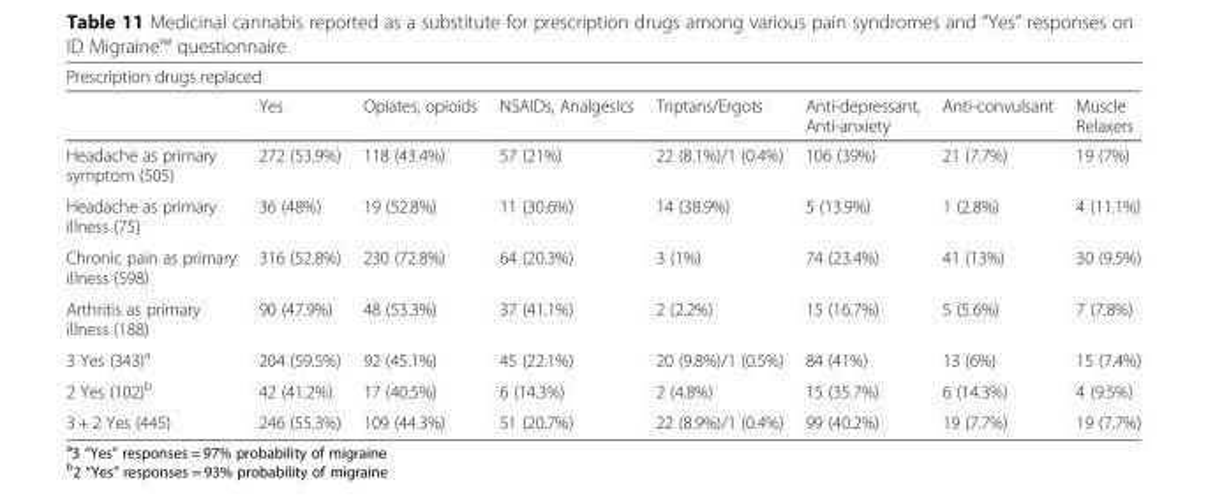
<table><thead><tr><td colspan="8">Prescription drugs replaced</td></tr><tr><td></td><td>Yes</td><td>Opiates, opioids</td><td>NSAIDs, Analgesics</td><td>Triptans/Ergots</td><td>Anti-depressant, Anti-anxiety</td><td>Anti-convulsant</td><td>Muscle Relaxers</td></tr></thead><tbody><tr><td>Headache as primary symptom (505)</td><td>272 (53.9%)</td><td>118 (43.4%)</td><td>57 (21%)</td><td>22 (8.1%)/1 (0.4%)</td><td>106 (39%)</td><td>21 (7.7%)</td><td>19 (7%)</td></tr><tr><td>Headache as primary illness (75)</td><td>36 (48%)</td><td>19 (52.8%)</td><td>11 (30.6%)</td><td>14 (38.9%)</td><td>5 (13.9%)</td><td>1 (2.8%)</td><td>4 (11.1%)</td></tr><tr><td>Chronic pain as primary illness (598)</td><td>316 (52.8%)</td><td>230 (72.8%)</td><td>64 (20.3%)</td><td>3 (1%)</td><td>74 (23.4%)</td><td>41 (13%)</td><td>30 (9.5%)</td></tr><tr><td>Arthritis as primary illness (188)</td><td>90 (47.9%)</td><td>48 (53.3%)</td><td>37 (41.1%)</td><td>2 (2.2%)</td><td>15 (16.7%)</td><td>5 (5.6%)</td><td>7 (7.8%)</td></tr><tr><td>3 Yes (343)<sup>a</sup></td><td>204 (59.5%)</td><td>92 (45.1%)</td><td>45 (22.1%)</td><td>20 (9.8%)/1 (0.5%)</td><td>84 (41%)</td><td>13 (6%)</td><td>15 (7.4%)</td></tr><tr><td>2 Yes (102)<sup>b</sup></td><td>42 (41.2%)</td><td>17 (40.5%)</td><td>6 (14.3%)</td><td>2 (4.8%)</td><td>15 (35.7%)</td><td>6 (14.3%)</td><td>4 (9.5%)</td></tr><tr><td>3 + 2 Yes (445)</td><td>246 (55.3%)</td><td>109 (44.3%)</td><td>51 (20.7%)</td><td>22 (8.9%)/1 (0.4%)</td><td>99 (40.2%)</td><td>19 (7.7%)</td><td>19 (7.7%)</td></tr></tbody></table>